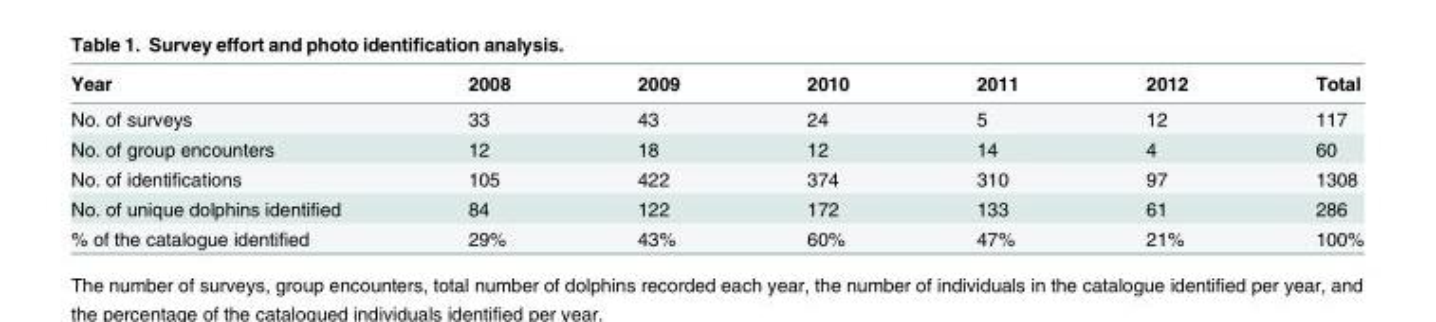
<table><thead><tr><td>Year</td><td>2008</td><td>2009</td><td>2010</td><td>2011</td><td>2012</td><td>Total</td></tr></thead><tbody><tr><td>No. of surveys</td><td>33</td><td>43</td><td>24</td><td>5</td><td>12</td><td>117</td></tr><tr><td>No. of group encounters</td><td>12</td><td>18</td><td>12</td><td>14</td><td>4</td><td>60</td></tr><tr><td>No. of identifications</td><td>105</td><td>422</td><td>374</td><td>310</td><td>97</td><td>1308</td></tr><tr><td>No. of unique dolphins identified</td><td>84</td><td>122</td><td>172</td><td>133</td><td>61</td><td>286</td></tr><tr><td>% of the catalogue identified</td><td>29%</td><td>43%</td><td>60%</td><td>47%</td><td>21%</td><td>100%</td></tr></tbody></table>